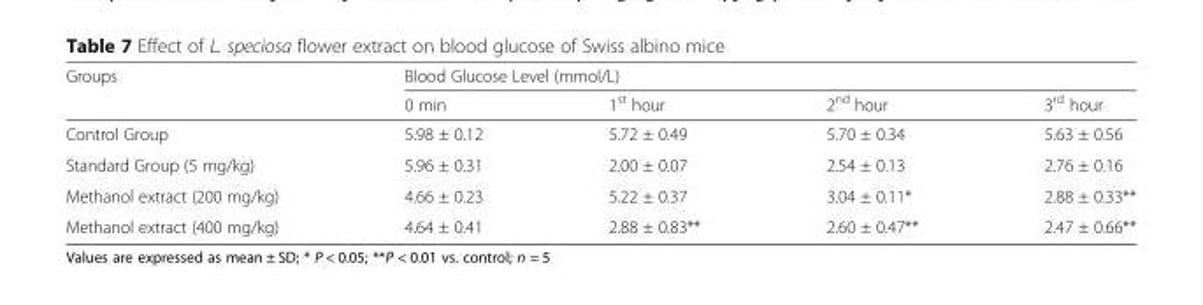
<table><thead><tr><td rowspan="2">Groups</td><td colspan="4">Blood Glucose Level (mmol/L)</td></tr><tr><td>0 min</td><td>1<sup>st</sup> hour</td><td>2<sup>nd</sup> hour</td><td>3<sup>rd</sup> hour</td></tr></thead><tbody><tr><td>Control Group</td><td>5.98 ± 0.12</td><td>5.72 ± 0.49</td><td>5.70 ± 0.34</td><td>5.63 ± 0.56</td></tr><tr><td>Standard Group (5 mg/kg)</td><td>5.96 ± 0.31</td><td>2.00 ± 0.07</td><td>2.54 ± 0.13</td><td>2.76 ± 0.16</td></tr><tr><td>Methanol extract (200 mg/kg)</td><td>4.66 ± 0.23</td><td>5.22 ± 0.37</td><td>3.04 ± 0.11*</td><td>2.88 ± 0.33**</td></tr><tr><td>Methanol extract (400 mg/kg)</td><td>4.64 ± 0.41</td><td>2.88 ± 0.83**</td><td>2.60 ± 0.47**</td><td>2.47 ± 0.66**</td></tr></tbody></table>